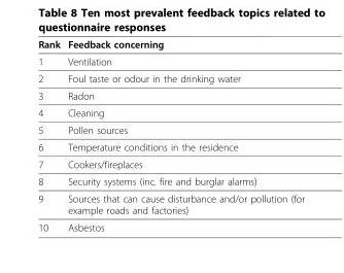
<table><thead><tr><td>Rank</td><td>Feedback concerning</td></tr></thead><tbody><tr><td>1</td><td>Ventilation</td></tr><tr><td>2</td><td>Foul taste or odour in the drinking water</td></tr><tr><td>3</td><td>Radon</td></tr><tr><td>4</td><td>Cleaning</td></tr><tr><td>5</td><td>Pollen sources</td></tr><tr><td>6</td><td>Temperature conditions in the residence</td></tr><tr><td>7</td><td>Cookers/fireplaces</td></tr><tr><td>8</td><td>Security systems (inc. fire and burglar alarms)</td></tr><tr><td>9</td><td>Sources that can cause disturbance and/or pollution (for example roads and factories)</td></tr><tr><td>10</td><td>Asbestos</td></tr></tbody></table>